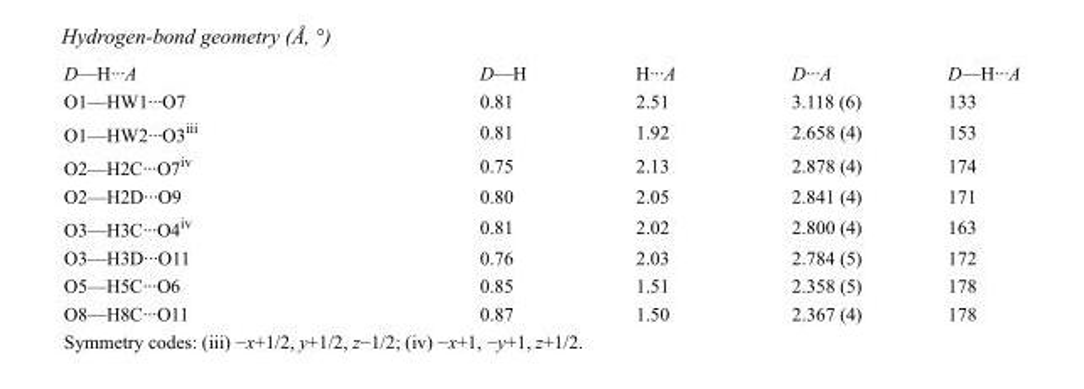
<table><tbody><tr><td>D—H···A</td><td>D—H</td><td>H···A</td><td>D···A</td><td>D—H···A</td></tr><tr><td>O1—HW1···O7</td><td>0.81</td><td>2.51</td><td>3.118 (6)</td><td>133</td></tr><tr><td>O1—HW2···O3<sup>iii</sup></td><td>0.81</td><td>1.92</td><td>2.658 (4)</td><td>153</td></tr><tr><td>O2—H2C···O7<sup>iv</sup></td><td>0.75</td><td>2.13</td><td>2.878 (4)</td><td>174</td></tr><tr><td>O2—H2D···O9</td><td>0.80</td><td>2.05</td><td>2.841 (4)</td><td>171</td></tr><tr><td>O3—H3C···O4<sup>iv</sup></td><td>0.81</td><td>2.02</td><td>2.800 (4)</td><td>163</td></tr><tr><td>O3—H3D···O11</td><td>0.76</td><td>2.03</td><td>2.784 (5)</td><td>172</td></tr><tr><td>O5—H5C···O6</td><td>0.85</td><td>1.51</td><td>2.358 (5)</td><td>178</td></tr><tr><td>O8—H8C···O11</td><td>0.87</td><td>1.50</td><td>2.367 (4)</td><td>178</td></tr></tbody></table>